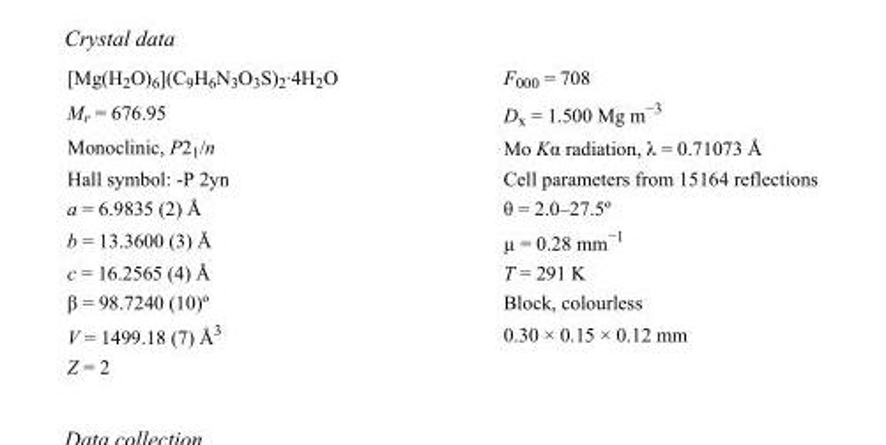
<table><tbody><tr><td>[Mg(H<sub>2</sub>O)<sub>6</sub>](C<sub>9</sub>H<sub>6</sub>N<sub>3</sub>O<sub>3</sub>S)<sub>2</sub>·4H<sub>2</sub>O</td><td>F000 = 708</td></tr><tr><td>M<sub>r</sub> = 676.95</td><td>D<sub>x</sub> = 1.500 Mg m<sup>−3</sup></td></tr><tr><td>Monoclinic, P2<sub>1</sub>/n</td><td>Mo Kα radiation, λ = 0.71073 Å</td></tr><tr><td>Hall symbol: -P 2yn</td><td>Cell parameters from 15164 reflections</td></tr><tr><td>a = 6.9835 (2) Å</td><td>θ = 2.0–27.5º</td></tr><tr><td>b = 13.3600 (3) Å</td><td>µ = 0.28 mm<sup>−1</sup></td></tr><tr><td>c = 16.2565 (4) Å</td><td>T = 291 K</td></tr><tr><td>β = 98.7240 (10)º</td><td>Block, colourless</td></tr><tr><td>V = 1499.18 (7) Å<sup>3</sup></td><td>0.30 × 0.15 × 0.12 mm</td></tr><tr><td>Z = 2</td><td></td></tr></tbody></table>